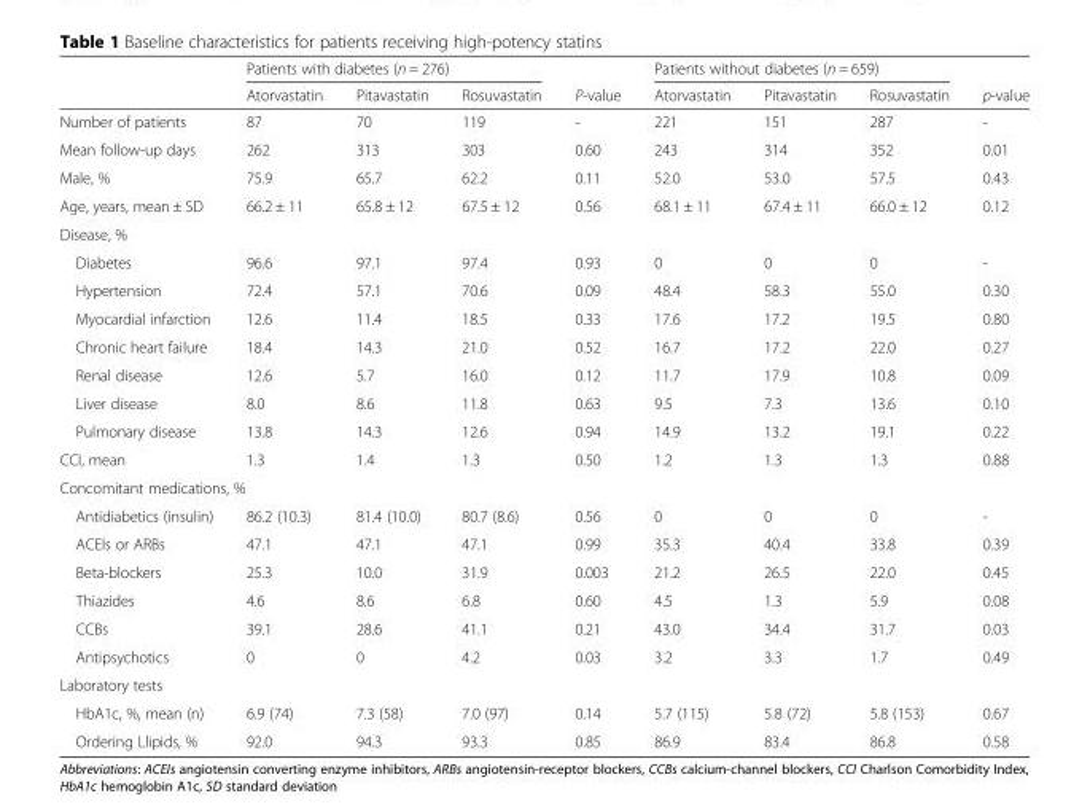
<table><thead><tr><td rowspan="2"></td><td colspan="3">Patients with diabetes (n = 276)</td><td rowspan="2">P-value</td><td colspan="3">Patients without diabetes (n = 659)</td><td rowspan="2">p-value</td></tr><tr><td>Atorvastatin</td><td>Pitavastatin</td><td>Rosuvastatin</td><td>Atorvastatin</td><td>Pitavastatin</td><td>Rosuvastatin</td></tr></thead><tbody><tr><td>Number of patients</td><td>87</td><td>70</td><td>119</td><td>-</td><td>221</td><td>151</td><td>287</td><td>-</td></tr><tr><td>Mean follow-up days</td><td>262</td><td>313</td><td>303</td><td>0.60</td><td>243</td><td>314</td><td>352</td><td>0.01</td></tr><tr><td>Male, %</td><td>75.9</td><td>65.7</td><td>62.2</td><td>0.11</td><td>52.0</td><td>53.0</td><td>57.5</td><td>0.43</td></tr><tr><td>Age, years, mean ± SD</td><td>66.2 ± 11</td><td>65.8 ± 12</td><td>67.5 ± 12</td><td>0.56</td><td>68.1 ± 11</td><td>67.4 ± 11</td><td>66.0 ± 12</td><td>0.12</td></tr><tr><td colspan="9">Disease, %</td></tr><tr><td>Diabetes</td><td>96.6</td><td>97.1</td><td>97.4</td><td>0.93</td><td>0</td><td>0</td><td>0</td><td>-</td></tr><tr><td>Hypertension</td><td>72.4</td><td>57.1</td><td>70.6</td><td>0.09</td><td>48.4</td><td>58.3</td><td>55.0</td><td>0.30</td></tr><tr><td>Myocardial infarction</td><td>12.6</td><td>11.4</td><td>18.5</td><td>0.33</td><td>17.6</td><td>17.2</td><td>19.5</td><td>0.80</td></tr><tr><td>Chronic heart failure</td><td>18.4</td><td>14.3</td><td>21.0</td><td>0.52</td><td>16.7</td><td>17.2</td><td>22.0</td><td>0.27</td></tr><tr><td>Renal disease</td><td>12.6</td><td>5.7</td><td>16.0</td><td>0.12</td><td>11.7</td><td>17.9</td><td>10.8</td><td>0.09</td></tr><tr><td>Liver disease</td><td>8.0</td><td>8.6</td><td>11.8</td><td>0.63</td><td>9.5</td><td>7.3</td><td>13.6</td><td>0.10</td></tr><tr><td>Pulmonary disease</td><td>13.8</td><td>14.3</td><td>12.6</td><td>0.94</td><td>14.9</td><td>13.2</td><td>19.1</td><td>0.22</td></tr><tr><td>CCI, mean</td><td>1.3</td><td>1.4</td><td>1.3</td><td>0.50</td><td>1.2</td><td>1.3</td><td>1.3</td><td>0.88</td></tr><tr><td colspan="9">Concomitant medications, %</td></tr><tr><td>Antidiabetics (insulin)</td><td>86.2 (10.3)</td><td>81.4 (10.0)</td><td>80.7 (8.6)</td><td>0.56</td><td>0</td><td>0</td><td>0</td><td>-</td></tr><tr><td>ACEIs or ARBs</td><td>47.1</td><td>47.1</td><td>47.1</td><td>0.99</td><td>35.3</td><td>40.4</td><td>33.8</td><td>0.39</td></tr><tr><td>Beta-blockers</td><td>25.3</td><td>10.0</td><td>31.9</td><td>0.003</td><td>21.2</td><td>26.5</td><td>22.0</td><td>0.45</td></tr><tr><td>Thiazides</td><td>4.6</td><td>8.6</td><td>6.8</td><td>0.60</td><td>4.5</td><td>1.3</td><td>5.9</td><td>0.08</td></tr><tr><td>CCBs</td><td>39.1</td><td>28.6</td><td>41.1</td><td>0.21</td><td>43.0</td><td>34.4</td><td>31.7</td><td>0.03</td></tr><tr><td>Antipsychotics</td><td>0</td><td>0</td><td>4.2</td><td>0.03</td><td>3.2</td><td>3.3</td><td>1.7</td><td>0.49</td></tr><tr><td colspan="9">Laboratory tests</td></tr><tr><td>HbA1c, %, mean (n)</td><td>6.9 (74)</td><td>7.3 (58)</td><td>7.0 (97)</td><td>0.14</td><td>5.7 (115)</td><td>5.8 (72)</td><td>5.8 (153)</td><td>0.67</td></tr><tr><td>Ordering Llipids, %</td><td>92.0</td><td>94.3</td><td>93.3</td><td>0.85</td><td>86.9</td><td>83.4</td><td>86.8</td><td>0.58</td></tr></tbody></table>